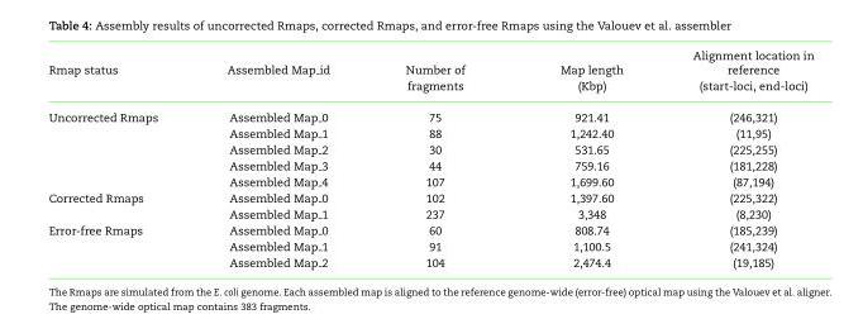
<table><thead><tr><td>Rmap status</td><td>Assembled Map id</td><td>Number of fragments</td><td>Map length (Kbp)</td><td>Alignment location in reference (start-loci, end-loci)</td></tr></thead><tbody><tr><td rowspan="5">Uncorrected Rmaps</td><td>Assembled Map 0</td><td>75</td><td>921.41</td><td>(246,321)</td></tr><tr><td>Assembled Map 1</td><td>88</td><td>1,242.40</td><td>(11,95)</td></tr><tr><td>Assembled Map 2</td><td>30</td><td>531.65</td><td>(225,255)</td></tr><tr><td>Assembled Map 3</td><td>44</td><td>759.16</td><td>(181,228)</td></tr><tr><td>Assembled Map 4</td><td>107</td><td>1,699.60</td><td>(87,194)</td></tr><tr><td rowspan="2">Corrected Rmaps</td><td>Assembled Map 0</td><td>102</td><td>1,397.60</td><td>(225,322)</td></tr><tr><td>Assembled Map 1</td><td>237</td><td>3,348</td><td>(8,230)</td></tr><tr><td rowspan="3">Error-free Rmaps</td><td>Assembled Map 0</td><td>60</td><td>808.74</td><td>(185,239)</td></tr><tr><td>Assembled Map 1</td><td>91</td><td>1,100.5</td><td>(241,324)</td></tr><tr><td>Assembled Map 2</td><td>104</td><td>2,474.4</td><td>(19,185)</td></tr></tbody></table>